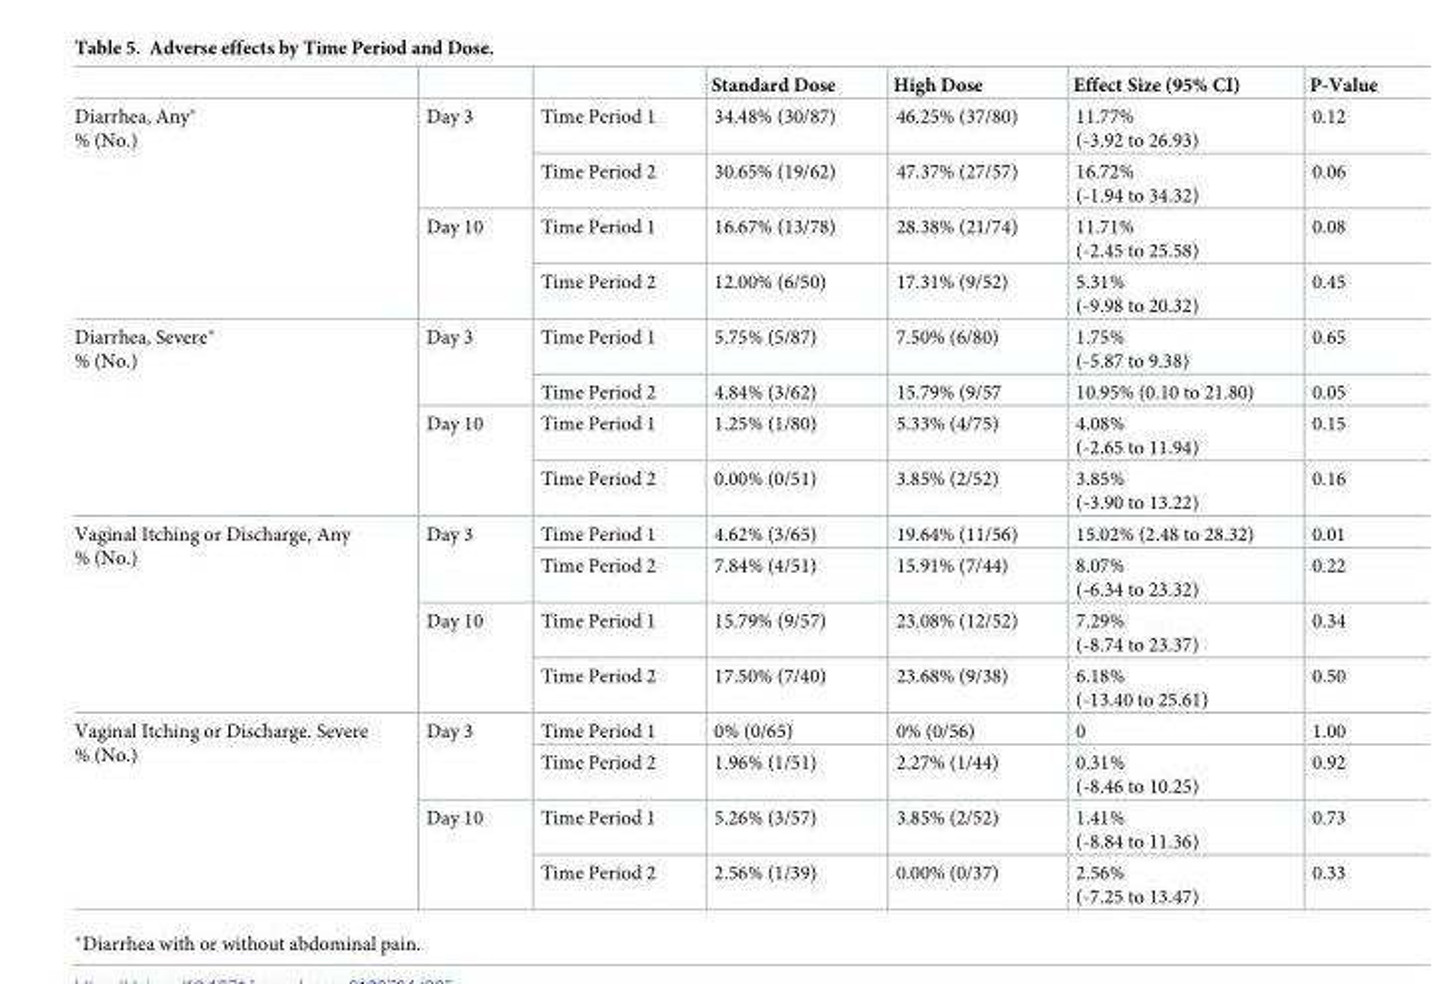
<table><thead><tr><td></td><td></td><td></td><td>Standard Dose</td><td>High Dose</td><td>Effect Size (95% CI)</td><td>P-Value</td></tr></thead><tbody><tr><td rowspan="4">Diarrhea, Any* % (No.)</td><td rowspan="2">Day 3</td><td>Time Period 1</td><td>34.48% (30/87)</td><td>46.25% (37/80)</td><td>11.77% (-3.92 to 26.93)</td><td>0.12</td></tr><tr><td>Time Period 2</td><td>30.65% (19/62)</td><td>47.37% (27/57)</td><td>16.72% (-1.94 to 34.32)</td><td>0.06</td></tr><tr><td rowspan="2">Day 10</td><td>Time Period 1</td><td>16.67% (13/78)</td><td>28.38% (21/74)</td><td>11.71% (-2.45 to 25.58)</td><td>0.08</td></tr><tr><td>Time Period 2</td><td>12.00% (6/50)</td><td>17.31% (9/52)</td><td>5.31% (-9.98 to 20.32)</td><td>0.45</td></tr><tr><td rowspan="4">Diarrhea, Severe* % (No.)</td><td rowspan="2">Day 3</td><td>Time Period 1</td><td>5.75% (5/87)</td><td>7.50% (6/80)</td><td>1.75% (-5.87 to 9.38)</td><td>0.65</td></tr><tr><td>Time Period 2</td><td>4.84% (3/62)</td><td>15.79% (9/57</td><td>10.95% (0.10 to 21.80)</td><td>0.05</td></tr><tr><td rowspan="2">Day 10</td><td>Time Period 1</td><td>1.25% (1/80)</td><td>5.33% (4/75)</td><td>4.08% (-2.65 to 11.94)</td><td>0.15</td></tr><tr><td>Time Period 2</td><td>0.00% (0/51)</td><td>3.85% (2/52)</td><td>3.85% (-3.90 to 13.22)</td><td>0.16</td></tr><tr><td rowspan="4">Vaginal Itching or Discharge, Any % (No.)</td><td rowspan="2">Day 3</td><td>Time Period 1</td><td>4.62% (3/65)</td><td>19.64% (11/56)</td><td>15.02% (2.48 to 28.32)</td><td>0.01</td></tr><tr><td>Time Period 2</td><td>7.84% (4/51)</td><td>15.91% (7/44)</td><td>8.07% (-6.34 to 23.32)</td><td>0.22</td></tr><tr><td rowspan="2">Day 10</td><td>Time Period 1</td><td>15.79% (9/57)</td><td>23.08% (12/52)</td><td>7.29% (-8.74 to 23.37)</td><td>0.34</td></tr><tr><td>Time Period 2</td><td>17.50% (7/40)</td><td>23.68% (9/38)</td><td>6.18% (-13.40 to 25.61)</td><td>0.50</td></tr><tr><td rowspan="4">Vaginal Itching or Discharge. Severe % (No.)</td><td rowspan="2">Day 3</td><td>Time Period 1</td><td>0% (0/65)</td><td>0% (0/56)</td><td>0</td><td>1.00</td></tr><tr><td>Time Period 2</td><td>1.96% (1/51)</td><td>2.27% (1/44)</td><td>0.31% (-8.46 to 10.25)</td><td>0.92</td></tr><tr><td rowspan="2">Day 10</td><td>Time Period 1</td><td>5.26% (3/57)</td><td>3.85% (2/52)</td><td>1.41% (-8.84 to 11.36)</td><td>0.73</td></tr><tr><td>Time Period 2</td><td>2.56% (1/39)</td><td>0.00% (0/37)</td><td>2.56% (-7.25 to 13.47)</td><td>0.33</td></tr></tbody></table>